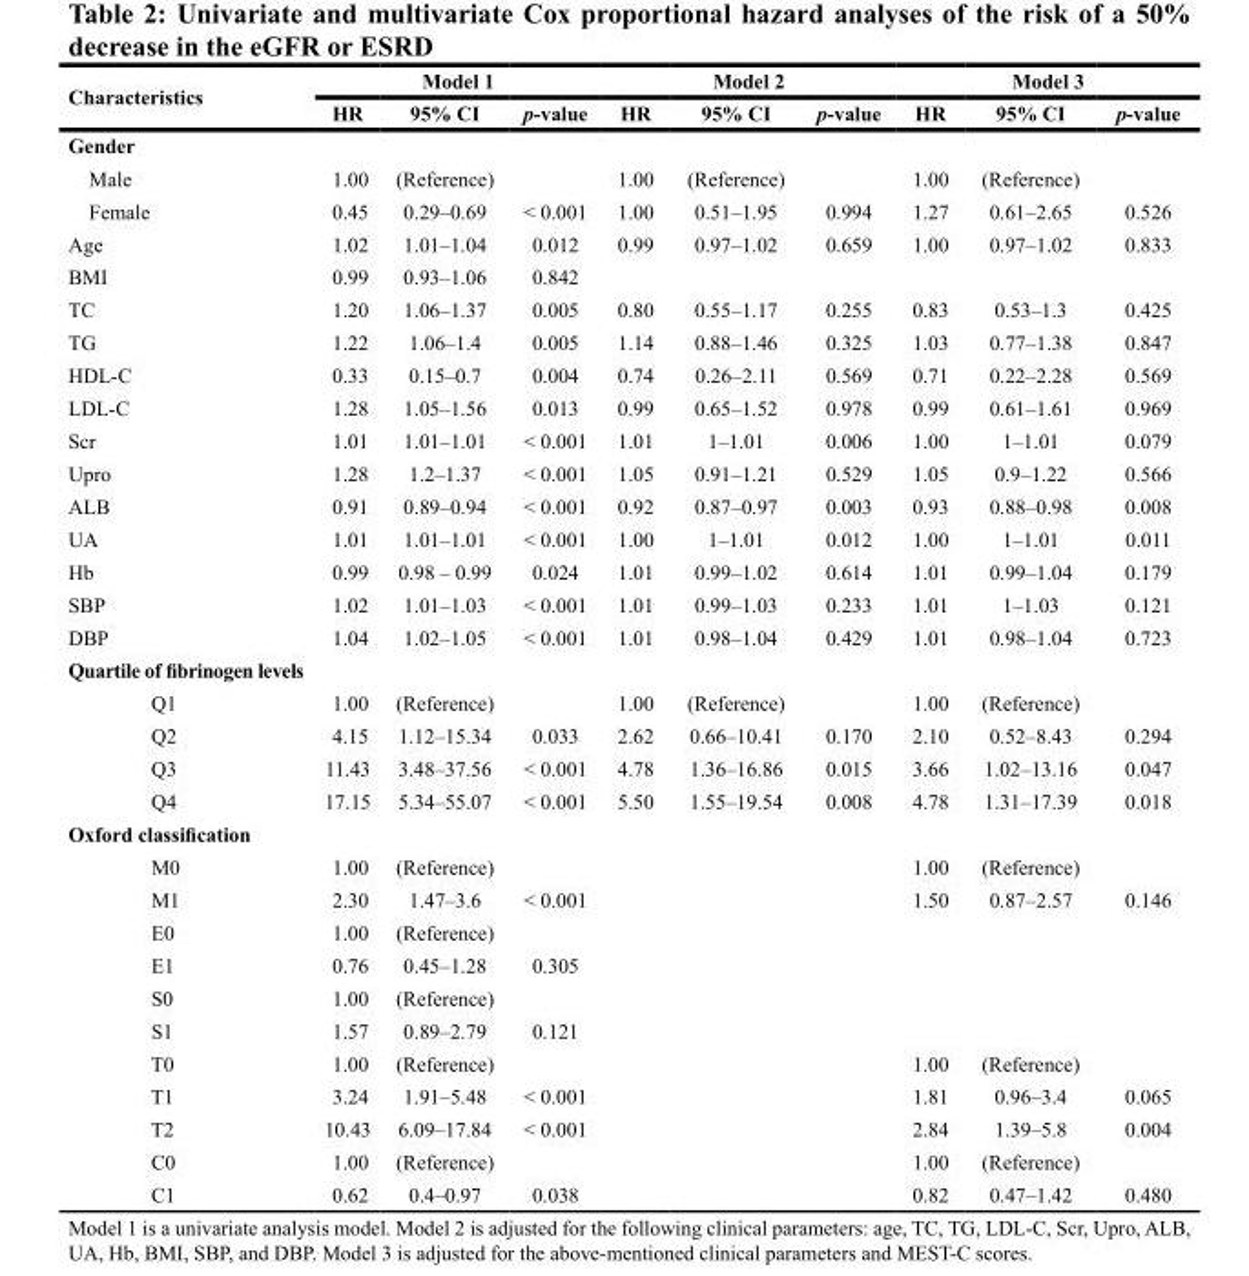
<table><thead><tr><td rowspan="2">Characteristics</td><td colspan="3">Model 1</td><td colspan="3">Model 2</td><td colspan="3">Model 3</td></tr><tr><td>HR</td><td>95% CI</td><td>p-value</td><td>HR</td><td>95% CI</td><td>p-value</td><td>HR</td><td>95% CI</td><td>p-value</td></tr></thead><tbody><tr><td colspan="10">Gender</td></tr><tr><td>Male</td><td>1.00</td><td>(Reference)</td><td></td><td>1.00</td><td>(Reference)</td><td></td><td>1.00</td><td>(Reference)</td><td></td></tr><tr><td>Female</td><td>0.45</td><td>0.29–0.69</td><td>&lt; 0.001</td><td>1.00</td><td>0.51–1.95</td><td>0.994</td><td>1.27</td><td>0.61–2.65</td><td>0.526</td></tr><tr><td>Age</td><td>1.02</td><td>1.01–1.04</td><td>0.012</td><td>0.99</td><td>0.97–1.02</td><td>0.659</td><td>1.00</td><td>0.97–1.02</td><td>0.833</td></tr><tr><td>BMI</td><td>0.99</td><td>0.93–1.06</td><td>0.842</td><td></td><td></td><td></td><td></td><td></td><td></td></tr><tr><td>TC</td><td>1.20</td><td>1.06–1.37</td><td>0.005</td><td>0.80</td><td>0.55–1.17</td><td>0.255</td><td>0.83</td><td>0.53–1.3</td><td>0.425</td></tr><tr><td>TG</td><td>1.22</td><td>1.06–1.4</td><td>0.005</td><td>1.14</td><td>0.88–1.46</td><td>0.325</td><td>1.03</td><td>0.77–1.38</td><td>0.847</td></tr><tr><td>HDL-C</td><td>0.33</td><td>0.15–0.7</td><td>0.004</td><td>0.74</td><td>0.26–2.11</td><td>0.569</td><td>0.71</td><td>0.22–2.28</td><td>0.569</td></tr><tr><td>LDL-C</td><td>1.28</td><td>1.05–1.56</td><td>0.013</td><td>0.99</td><td>0.65–1.52</td><td>0.978</td><td>0.99</td><td>0.61–1.61</td><td>0.969</td></tr><tr><td>Scr</td><td>1.01</td><td>1.01–1.01</td><td>&lt; 0.001</td><td>1.01</td><td>1–1.01</td><td>0.006</td><td>1.00</td><td>1–1.01</td><td>0.079</td></tr><tr><td>Upro</td><td>1.28</td><td>1.2–1.37</td><td>&lt; 0.001</td><td>1.05</td><td>0.91–1.21</td><td>0.529</td><td>1.05</td><td>0.9–1.22</td><td>0.566</td></tr><tr><td>ALB</td><td>0.91</td><td>0.89–0.94</td><td>&lt; 0.001</td><td>0.92</td><td>0.87–0.97</td><td>0.003</td><td>0.93</td><td>0.88–0.98</td><td>0.008</td></tr><tr><td>UA</td><td>1.01</td><td>1.01–1.01</td><td>&lt; 0.001</td><td>1.00</td><td>1–1.01</td><td>0.012</td><td>1.00</td><td>1–1.01</td><td>0.011</td></tr><tr><td>Hb</td><td>0.99</td><td>0.98 – 0.99</td><td>0.024</td><td>1.01</td><td>0.99–1.02</td><td>0.614</td><td>1.01</td><td>0.99–1.04</td><td>0.179</td></tr><tr><td>SBP</td><td>1.02</td><td>1.01–1.03</td><td>&lt; 0.001</td><td>1.01</td><td>0.99–1.03</td><td>0.233</td><td>1.01</td><td>1–1.03</td><td>0.121</td></tr><tr><td>DBP</td><td>1.04</td><td>1.02–1.05</td><td>&lt; 0.001</td><td>1.01</td><td>0.98–1.04</td><td>0.429</td><td>1.01</td><td>0.98–1.04</td><td>0.723</td></tr><tr><td colspan="10">Quartile of fibrinogen levels</td></tr><tr><td>Q1</td><td>1.00</td><td>(Reference)</td><td></td><td>1.00</td><td>(Reference)</td><td></td><td>1.00</td><td>(Reference)</td><td></td></tr><tr><td>Q2</td><td>4.15</td><td>1.12–15.34</td><td>0.033</td><td>2.62</td><td>0.66–10.41</td><td>0.170</td><td>2.10</td><td>0.52–8.43</td><td>0.294</td></tr><tr><td>Q3</td><td>11.43</td><td>3.48–37.56</td><td>&lt; 0.001</td><td>4.78</td><td>1.36–16.86</td><td>0.015</td><td>3.66</td><td>1.02–13.16</td><td>0.047</td></tr><tr><td>Q4</td><td>17.15</td><td>5.34–55.07</td><td>&lt; 0.001</td><td>5.50</td><td>1.55–19.54</td><td>0.008</td><td>4.78</td><td>1.31–17.39</td><td>0.018</td></tr><tr><td colspan="10">Oxford classification</td></tr><tr><td>M0</td><td>1.00</td><td>(Reference)</td><td></td><td></td><td></td><td></td><td>1.00</td><td>(Reference)</td><td></td></tr><tr><td>M1</td><td>2.30</td><td>1.47–3.6</td><td>&lt; 0.001</td><td></td><td></td><td></td><td>1.50</td><td>0.87–2.57</td><td>0.146</td></tr><tr><td>E0</td><td>1.00</td><td>(Reference)</td><td></td><td></td><td></td><td></td><td></td><td></td><td></td></tr><tr><td>E1</td><td>0.76</td><td>0.45–1.28</td><td>0.305</td><td></td><td></td><td></td><td></td><td></td><td></td></tr><tr><td>S0</td><td>1.00</td><td>(Reference)</td><td></td><td></td><td></td><td></td><td></td><td></td><td></td></tr><tr><td>S1</td><td>1.57</td><td>0.89–2.79</td><td>0.121</td><td></td><td></td><td></td><td></td><td></td><td></td></tr><tr><td>T0</td><td>1.00</td><td>(Reference)</td><td></td><td></td><td></td><td></td><td>1.00</td><td>(Reference)</td><td></td></tr><tr><td>T1</td><td>3.24</td><td>1.91–5.48</td><td>&lt; 0.001</td><td></td><td></td><td></td><td>1.81</td><td>0.96–3.4</td><td>0.065</td></tr><tr><td>T2</td><td>10.43</td><td>6.09–17.84</td><td>&lt; 0.001</td><td></td><td></td><td></td><td>2.84</td><td>1.39–5.8</td><td>0.004</td></tr><tr><td>C0</td><td>1.00</td><td>(Reference)</td><td></td><td></td><td></td><td></td><td>1.00</td><td>(Reference)</td><td></td></tr><tr><td>C1</td><td>0.62</td><td>0.4–0.97</td><td>0.038</td><td></td><td></td><td></td><td>0.82</td><td>0.47–1.42</td><td>0.480</td></tr></tbody></table>